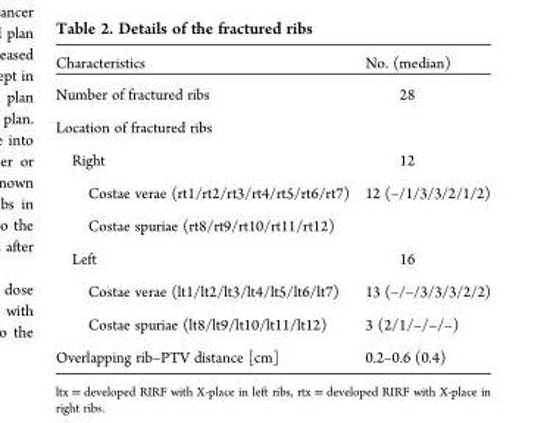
<table><thead><tr><td>Characteristics</td><td>No. (median)</td></tr></thead><tbody><tr><td>Number of fractured ribs</td><td>28</td></tr><tr><td colspan="2">Location of fractured ribs</td></tr><tr><td>Right</td><td>12</td></tr><tr><td>Costae verae (rt1/rt2/rt3/rt4/rt5/rt6/rt7)</td><td>12 (–/1/3/3/2/1/2)</td></tr><tr><td colspan="2">Costae spuriae (rt8/rt9/rt10/rt11/rt12)</td></tr><tr><td>Left</td><td>16</td></tr><tr><td>Costae verae (lt1/lt2/lt3/lt4/lt5/lt6/lt7)</td><td>13 (–/–/3/3/3/2/2)</td></tr><tr><td>Costae spuriae (lt8/lt9/lt10/lt11/lt12)</td><td>3 (2/1/–/–/–)</td></tr><tr><td>Overlapping rib–PTV distance [cm]</td><td>0.2–0.6 (0.4)</td></tr></tbody></table>